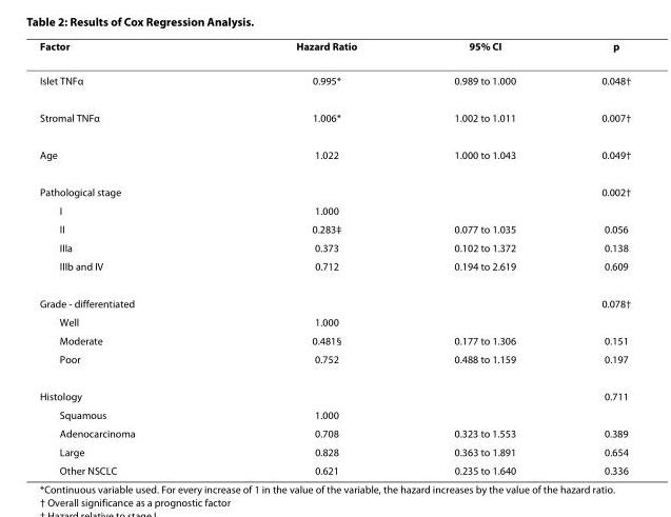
<table><thead><tr><td>Factor</td><td>Hazard Ratio</td><td>95% CI</td><td>p</td></tr></thead><tbody><tr><td>Islet TNFα</td><td>0.995*</td><td>0.989 to 1.000</td><td>0.048†</td></tr><tr><td>Stromal TNFα</td><td>1.006*</td><td>1.002 to 1.011</td><td>0.007†</td></tr><tr><td>Age</td><td>1.022</td><td>1.000 to 1.043</td><td>0.049†</td></tr><tr><td>Pathological stage</td><td></td><td></td><td>0.002†</td></tr><tr><td>I</td><td>1.000</td><td></td><td></td></tr><tr><td>II</td><td>0.283‡</td><td>0.077 to 1.035</td><td>0.056</td></tr><tr><td>IIIa</td><td>0.373</td><td>0.102 to 1.372</td><td>0.138</td></tr><tr><td>IIIb and IV</td><td>0.712</td><td>0.194 to 2.619</td><td>0.609</td></tr><tr><td>Grade - differentiated</td><td></td><td></td><td>0.078†</td></tr><tr><td>Well</td><td>1.000</td><td></td><td></td></tr><tr><td>Moderate</td><td>0.481§</td><td>0.177 to 1.306</td><td>0.151</td></tr><tr><td>Poor</td><td>0.752</td><td>0.488 to 1.159</td><td>0.197</td></tr><tr><td>Histology</td><td></td><td></td><td>0.711</td></tr><tr><td>Squamous</td><td>1.000</td><td></td><td></td></tr><tr><td>Adenocarcinoma</td><td>0.708</td><td>0.323 to 1.553</td><td>0.389</td></tr><tr><td>Large</td><td>0.828</td><td>0.363 to 1.891</td><td>0.654</td></tr><tr><td>Other NSCLC</td><td>0.621</td><td>0.235 to 1.640</td><td>0.336</td></tr></tbody></table>